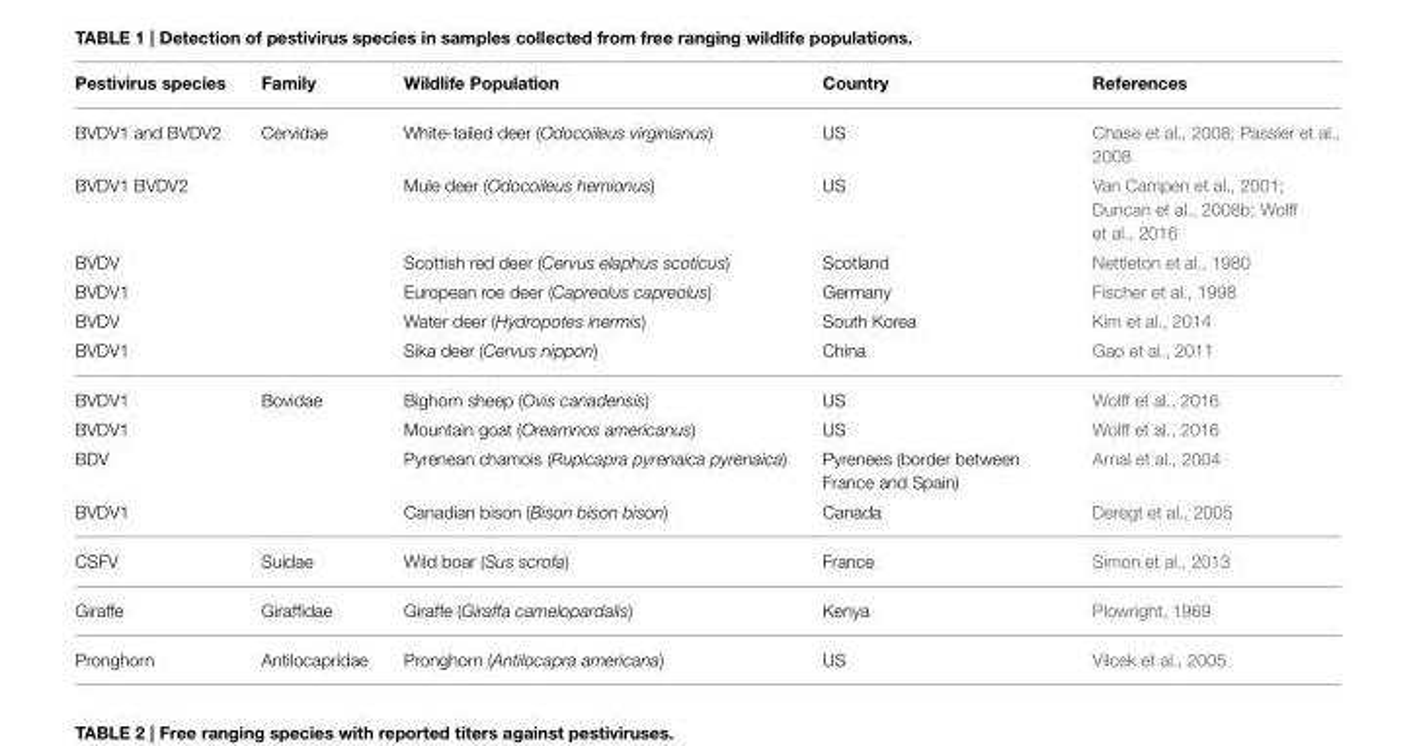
<table><thead><tr><td>Pestivirus species</td><td>Family</td><td>Wildlife Population</td><td>Country</td><td>References</td></tr></thead><tbody><tr><td>BVDV1 and BVDV2</td><td>Cervidae</td><td>White-tailed deer (Odocoileus virginianus)</td><td>US</td><td>Chase et al., 2008; Passler et al., 2008</td></tr><tr><td>BVDV1 BVDV2</td><td></td><td>Mule deer (Odocoileus hemionus)</td><td>US</td><td>Van Campen et al., 2001; Duncan et al., 2008b; Wolff et al., 2016</td></tr><tr><td>BVDV</td><td></td><td>Scottish red deer (Cervus elaphus scoticus)</td><td>Scotland</td><td>Nettleton et al., 1980</td></tr><tr><td>BVDV1</td><td></td><td>European roe deer (Capreolus capreolus)</td><td>Germany</td><td>Fischer et al., 1998</td></tr><tr><td>BVDV</td><td></td><td>Water deer (Hydropotes inermis)</td><td>South Korea</td><td>Kim et al., 2014</td></tr><tr><td>BVDV1</td><td></td><td>Sika deer (Cervus nippon)</td><td>China</td><td>Gao et al., 2011</td></tr><tr><td>BVDV1</td><td>Bovidae</td><td>Bighorn sheep (Ovis canadensis)</td><td>US</td><td>Wolff et al., 2016</td></tr><tr><td>BVDV1</td><td></td><td>Mountain goat (Oreamnos americanus)</td><td>US</td><td>Wolff et al., 2016</td></tr><tr><td>BDV</td><td></td><td>Pyrenean chamois (Rupicapra pyrenaica pyrenaica)</td><td>Pyrenees (border between France and Spain)</td><td>Arnal et al., 2004</td></tr><tr><td>BVDV1</td><td></td><td>Canadian bison (Bison bison bison)</td><td>Canada</td><td>Deregt et al., 2005</td></tr><tr><td>CSFV</td><td>Suidae</td><td>Wild boar (Sus scrofa)</td><td>France</td><td>Simon et al., 2013</td></tr><tr><td>Giraffe</td><td>Giraffidae</td><td>Giraffe (Giraffa camelopardalis)</td><td>Kenya</td><td>Plowright, 1969</td></tr><tr><td>Pronghorn</td><td>Antilocapridae</td><td>Pronghorn (Antilocapra americana)</td><td>US</td><td>Vilcek et al., 2005</td></tr></tbody></table>